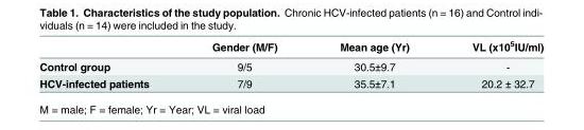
<table><thead><tr><td></td><td>Gender (M/F)</td><td>Mean age (Yr)</td><td>VL (x10<sup>5</sup>IU/ml)</td></tr></thead><tbody><tr><td>Control group</td><td>9/5</td><td>30.5±9.7</td><td>-</td></tr><tr><td>HCV-infected patients</td><td>7/9</td><td>35.5±7.1</td><td>20.2 ± 32.7</td></tr></tbody></table>